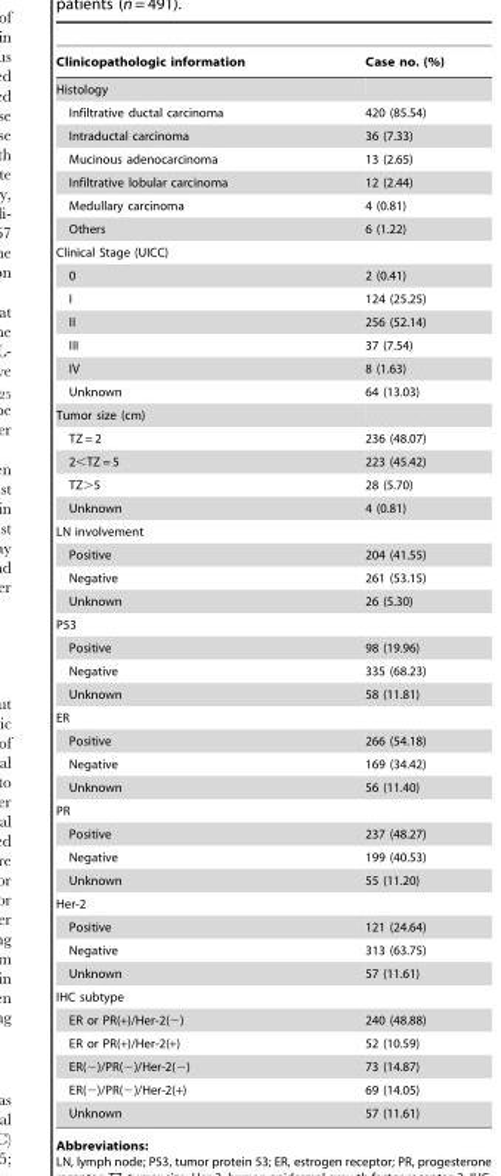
<table><thead><tr><td>Clinicopathologic information</td><td>Case no. (%)</td></tr></thead><tbody><tr><td colspan="2">Histology</td></tr><tr><td>Infiltrative ductal carcinoma</td><td>420 (85.54)</td></tr><tr><td>Intraductal carcinoma</td><td>36 (7.33)</td></tr><tr><td>Mucinous adenocarcinoma</td><td>13 (2.65)</td></tr><tr><td>Infiltrative lobular carcinoma</td><td>12 (2.44)</td></tr><tr><td>Medullary carcinoma</td><td>4 (0.81)</td></tr><tr><td>Others</td><td>6 (1.22)</td></tr><tr><td colspan="2">Clinical Stage (UICC)</td></tr><tr><td>0</td><td>2 (0.41)</td></tr><tr><td>I</td><td>124 (25.25)</td></tr><tr><td>II</td><td>256 (52.14)</td></tr><tr><td>III</td><td>37 (7.54)</td></tr><tr><td>IV</td><td>8 (1.63)</td></tr><tr><td>Unknown</td><td>64 (13.03)</td></tr><tr><td colspan="2">Tumor size (cm)</td></tr><tr><td>TZ = 2</td><td>236 (48.07)</td></tr><tr><td>2&lt;TZ = 5</td><td>223 (45.42)</td></tr><tr><td>TZ&gt;5</td><td>28 (5.70)</td></tr><tr><td>Unknown</td><td>4 (0.81)</td></tr><tr><td colspan="2">LN involvement</td></tr><tr><td>Positive</td><td>204 (41.55)</td></tr><tr><td>Negative</td><td>261 (53.15)</td></tr><tr><td>Unknown</td><td>26 (5.30)</td></tr><tr><td colspan="2">P53</td></tr><tr><td>Positive</td><td>98 (19.96)</td></tr><tr><td>Negative</td><td>335 (68.23)</td></tr><tr><td>Unknown</td><td>58 (11.81)</td></tr><tr><td colspan="2">ER</td></tr><tr><td>Positive</td><td>266 (54.18)</td></tr><tr><td>Negative</td><td>169 (34.42)</td></tr><tr><td>Unknown</td><td>56 (11.40)</td></tr><tr><td colspan="2">PR</td></tr><tr><td>Positive</td><td>237 (48.27)</td></tr><tr><td>Negative</td><td>199 (40.53)</td></tr><tr><td>Unknown</td><td>55 (11.20)</td></tr><tr><td colspan="2">Her-2</td></tr><tr><td>Positive</td><td>121 (24.64)</td></tr><tr><td>Negative</td><td>313 (63.75)</td></tr><tr><td>Unknown</td><td>57 (11.61)</td></tr><tr><td colspan="2">IHC subtype</td></tr><tr><td>ER or PR(+)/Her-2(−)</td><td>240 (48.88)</td></tr><tr><td>ER or PR(+)/Her-2(+)</td><td>52 (10.59)</td></tr><tr><td>ER(−)/PR(−)/Her-2(−)</td><td>73 (14.87)</td></tr><tr><td>ER(−)/PR(−)/Her-2(+)</td><td>69 (14.05)</td></tr><tr><td>Unknown</td><td>57 (11.61)</td></tr></tbody></table>